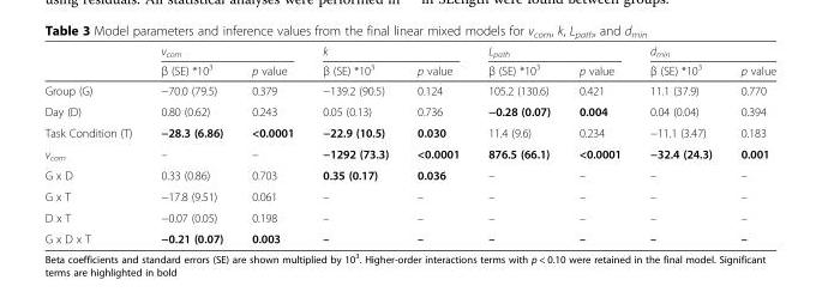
<table><thead><tr><td rowspan="2"></td><td colspan="2">v<sub>com</sub></td><td colspan="2">k</td><td colspan="2">L<sub>path</sub></td><td colspan="2">d<sub>min</sub></td></tr><tr><td>β (SE) *10<sup>3</sup></td><td>p value</td><td>β (SE) *10<sup>3</sup></td><td>p value</td><td>β (SE) *10<sup>3</sup></td><td>p value</td><td>β (SE) *10<sup>3</sup></td><td>p value</td></tr></thead><tbody><tr><td>Group (G)</td><td>−70.0 (79.5)</td><td>0.379</td><td>−139.2 (90.5)</td><td>0.124</td><td>105.2 (130.6)</td><td>0.421</td><td>11.1 (37.9)</td><td>0.770</td></tr><tr><td>Day (D)</td><td>0.80 (0.62)</td><td>0.243</td><td>0.05 (0.13)</td><td>0.736</td><td>−0.28 (0.07)</td><td>0.004</td><td>0.04 (0.04)</td><td>0.394</td></tr><tr><td>Task Condition (T)</td><td>−28.3 (6.86)</td><td>&lt;0.0001</td><td>−22.9 (10.5)</td><td>0.030</td><td>11.4 (9.6)</td><td>0.234</td><td>−11.1 (3.47)</td><td>0.183</td></tr><tr><td>v<sub>com</sub></td><td>–</td><td>–</td><td>−1292 (73.3)</td><td>&lt;0.0001</td><td>876.5 (66.1)</td><td>&lt;0.0001</td><td>−32.4 (24.3)</td><td>0.001</td></tr><tr><td>G x D</td><td>0.33 (0.86)</td><td>0.703</td><td>0.35 (0.17)</td><td>0.036</td><td>–</td><td>–</td><td>–</td><td>–</td></tr><tr><td>G x T</td><td>−17.8 (9.51)</td><td>0.061</td><td>–</td><td>–</td><td>–</td><td>–</td><td>–</td><td>–</td></tr><tr><td>D x T</td><td>−0.07 (0.05)</td><td>0.198</td><td>–</td><td>–</td><td>–</td><td>–</td><td>–</td><td>–</td></tr><tr><td>G x D x T</td><td>−0.21 (0.07)</td><td>0.003</td><td>–</td><td>–</td><td>–</td><td>–</td><td>–</td><td>–</td></tr></tbody></table>